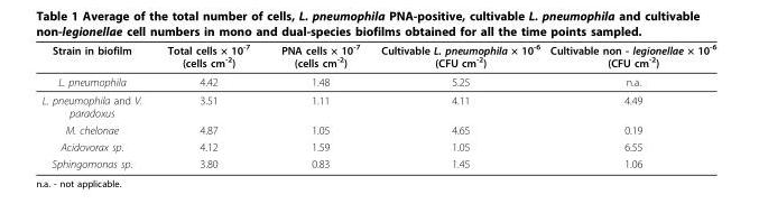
<table><thead><tr><td>Strain in biofilm</td><td>Total cells × 10<sup>-7</sup> (cells cm<sup>-2</sup>)</td><td>PNA cells × 10<sup>-7</sup> (cells cm<sup>-2</sup>)</td><td>Cultivable L. pneumophila × 10<sup>-6</sup> (CFU cm<sup>-2</sup>)</td><td>Cultivable non - legionellae × 10<sup>-6</sup> (CFU cm<sup>-2</sup>)</td></tr></thead><tbody><tr><td>L. pneumophila</td><td>4.42</td><td>1.48</td><td>5.25</td><td>n.a.</td></tr><tr><td>L. pneumophila and V. paradoxus</td><td>3.51</td><td>1.11</td><td>4.11</td><td>4.49</td></tr><tr><td>M. chelonae</td><td>4.87</td><td>1.05</td><td>4.65</td><td>0.19</td></tr><tr><td>Acidovorax sp.</td><td>4.12</td><td>1.59</td><td>1.05</td><td>6.55</td></tr><tr><td>Sphingomonas sp.</td><td>3.80</td><td>0.83</td><td>1.45</td><td>1.06</td></tr></tbody></table>